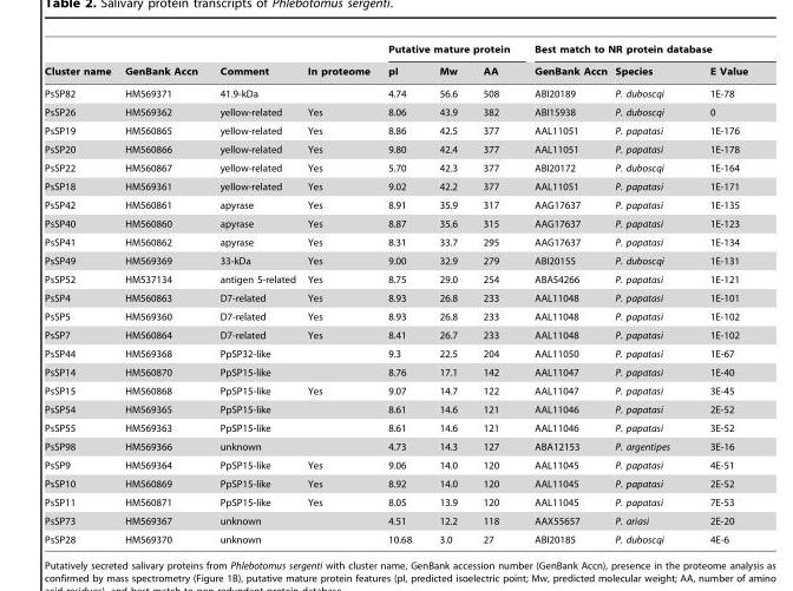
<table><thead><tr><td rowspan="2">Cluster name</td><td rowspan="2">GenBank Accn</td><td rowspan="2">Comment</td><td rowspan="2">In proteome</td><td colspan="3">Putative mature protein</td><td colspan="3">Best match to NR protein database</td></tr><tr><td>pI</td><td>Mw</td><td>AA</td><td>GenBank Accn</td><td>Species</td><td>E Value</td></tr></thead><tbody><tr><td>PsSP82</td><td>HM569371</td><td>41.9-kDa</td><td></td><td>4.74</td><td>56.6</td><td>508</td><td>ABI20189</td><td>P. duboscqi</td><td>1E-78</td></tr><tr><td>PsSP26</td><td>HM569362</td><td>yellow-related</td><td>Yes</td><td>8.06</td><td>43.9</td><td>382</td><td>ABI15938</td><td>P. duboscqi</td><td>0</td></tr><tr><td>PsSP19</td><td>HM560865</td><td>yellow-related</td><td>Yes</td><td>8.86</td><td>42.5</td><td>377</td><td>AAL11051</td><td>P. papatasi</td><td>1E-176</td></tr><tr><td>PsSP20</td><td>HM560866</td><td>yellow-related</td><td>Yes</td><td>9.80</td><td>42.4</td><td>377</td><td>AAL11051</td><td>P. papatasi</td><td>1E-178</td></tr><tr><td>PsSP22</td><td>HM560867</td><td>yellow-related</td><td>Yes</td><td>5.70</td><td>42.3</td><td>377</td><td>ABI20172</td><td>P. duboscqi</td><td>1E-164</td></tr><tr><td>PsSP18</td><td>HM569361</td><td>yellow-related</td><td>Yes</td><td>9.02</td><td>42.2</td><td>377</td><td>AAL11051</td><td>P. papatasi</td><td>1E-171</td></tr><tr><td>PsSP42</td><td>HM560861</td><td>apyrase</td><td>Yes</td><td>8.91</td><td>35.9</td><td>317</td><td>AAG17637</td><td>P. papatasi</td><td>1E-135</td></tr><tr><td>PsSP40</td><td>HM560860</td><td>apyrase</td><td>Yes</td><td>8.87</td><td>35.6</td><td>315</td><td>AAG17637</td><td>P. papatasi</td><td>1E-123</td></tr><tr><td>PsSP41</td><td>HM560862</td><td>apyrase</td><td>Yes</td><td>8.31</td><td>33.7</td><td>295</td><td>AAG17637</td><td>P. papatasi</td><td>1E-134</td></tr><tr><td>PsSP49</td><td>HM569369</td><td>33-kDa</td><td>Yes</td><td>9.00</td><td>32.9</td><td>279</td><td>ABI20155</td><td>P. duboscqi</td><td>1E-131</td></tr><tr><td>PsSP52</td><td>HM537134</td><td>antigen 5-related</td><td>Yes</td><td>8.75</td><td>29.0</td><td>254</td><td>ABA54266</td><td>P. papatasi</td><td>1E-121</td></tr><tr><td>PsSP4</td><td>HM560863</td><td>D7-related</td><td>Yes</td><td>8.93</td><td>26.8</td><td>233</td><td>AAL11048</td><td>P. papatasi</td><td>1E-101</td></tr><tr><td>PsSP5</td><td>HM569360</td><td>D7-related</td><td>Yes</td><td>8.93</td><td>26.8</td><td>233</td><td>AAL11048</td><td>P. papatasi</td><td>1E-102</td></tr><tr><td>PsSP7</td><td>HM560864</td><td>D7-related</td><td>Yes</td><td>8.41</td><td>26.7</td><td>233</td><td>AAL11048</td><td>P. papatasi</td><td>1E-102</td></tr><tr><td>PsSP44</td><td>HM569368</td><td>PpSP32-like</td><td></td><td>9.3</td><td>22.5</td><td>204</td><td>AAL11050</td><td>P. papatasi</td><td>1E-67</td></tr><tr><td>PsSP14</td><td>HM560870</td><td>PpSP15-like</td><td></td><td>8.76</td><td>17.1</td><td>142</td><td>AAL11047</td><td>P. papatasi</td><td>1E-40</td></tr><tr><td>PsSP15</td><td>HM560868</td><td>PpSP15-like</td><td>Yes</td><td>9.07</td><td>14.7</td><td>122</td><td>AAL11047</td><td>P. papatasi</td><td>3E-45</td></tr><tr><td>PsSP54</td><td>HM569365</td><td>PpSP15-like</td><td></td><td>8.61</td><td>14.6</td><td>121</td><td>AAL11046</td><td>P. papatasi</td><td>2E-52</td></tr><tr><td>PsSP55</td><td>HM569363</td><td>PpSP15-like</td><td></td><td>8.61</td><td>14.6</td><td>121</td><td>AAL11046</td><td>P. papatasi</td><td>3E-52</td></tr><tr><td>PsSP98</td><td>HM569366</td><td>unknown</td><td></td><td>4.73</td><td>14.3</td><td>127</td><td>ABA12153</td><td>P. argentipes</td><td>3E-16</td></tr><tr><td>PsSP9</td><td>HM569364</td><td>PpSP15-like</td><td>Yes</td><td>9.06</td><td>14.0</td><td>120</td><td>AAL11045</td><td>P. papatasi</td><td>4E-51</td></tr><tr><td>PsSP10</td><td>HM560869</td><td>PpSP15-like</td><td>Yes</td><td>8.92</td><td>14.0</td><td>120</td><td>AAL11045</td><td>P. papatasi</td><td>2E-52</td></tr><tr><td>PsSP11</td><td>HM560871</td><td>PpSP15-like</td><td>Yes</td><td>8.05</td><td>13.9</td><td>120</td><td>AAL11045</td><td>P. papatasi</td><td>7E-53</td></tr><tr><td>PsSP73</td><td>HM569367</td><td>unknown</td><td></td><td>4.51</td><td>12.2</td><td>118</td><td>AAX55657</td><td>P. ariasi</td><td>2E-20</td></tr><tr><td>PsSP28</td><td>HM569370</td><td>unknown</td><td></td><td>10.68</td><td>3.0</td><td>27</td><td>ABI20185</td><td>P. duboscqi</td><td>4E-6</td></tr></tbody></table>